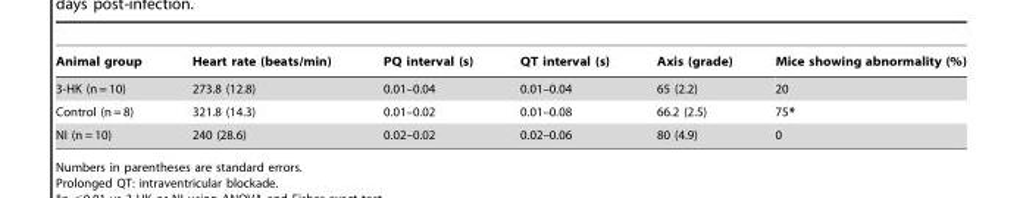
<table><thead><tr><td>Animal group</td><td>Heart rate (beats/min)</td><td>PQ interval (s)</td><td>QT interval (s)</td><td>Axis (grade)</td><td>Mice showing abnormality (%)</td></tr></thead><tbody><tr><td>3-HK (n = 10)</td><td>273.8 (12.8)</td><td>0.01–0.04</td><td>0.01–0.04</td><td>65 (2.2)</td><td>20</td></tr><tr><td>Control (n = 8)</td><td>321.8 (14.3)</td><td>0.01–0.02</td><td>0.01–0.08</td><td>66.2 (2.5)</td><td>75*</td></tr><tr><td>NI (n = 10)</td><td>240 (28.6)</td><td>0.02–0.02</td><td>0.02–0.06</td><td>80 (4.9)</td><td>0</td></tr></tbody></table>